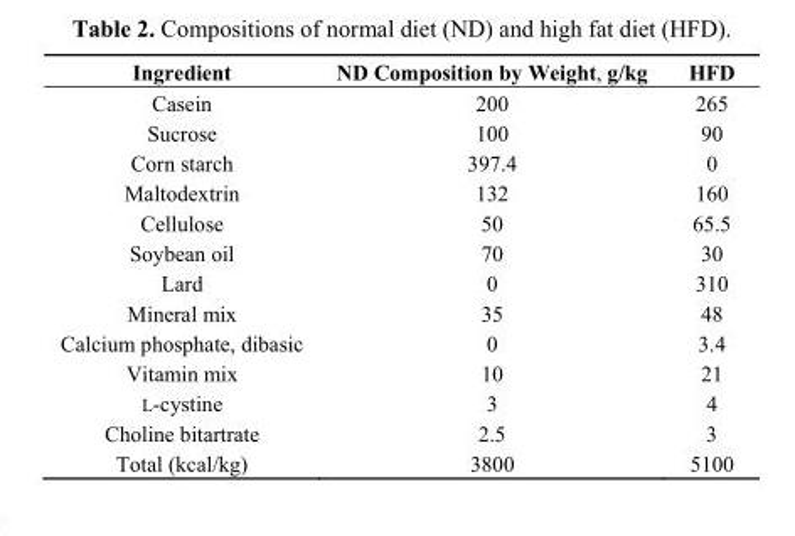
<table><thead><tr><td>Ingredient</td><td>ND Composition by Weight, g/kg</td><td>HFD</td></tr></thead><tbody><tr><td>Casein</td><td>200</td><td>265</td></tr><tr><td>Sucrose</td><td>100</td><td>90</td></tr><tr><td>Corn starch</td><td>397.4</td><td>0</td></tr><tr><td>Maltodextrin</td><td>132</td><td>160</td></tr><tr><td>Cellulose</td><td>50</td><td>65.5</td></tr><tr><td>Soybean oil</td><td>70</td><td>30</td></tr><tr><td>Lard</td><td>0</td><td>310</td></tr><tr><td>Mineral mix</td><td>35</td><td>48</td></tr><tr><td>Calcium phosphate, dibasic</td><td>0</td><td>3.4</td></tr><tr><td>Vitamin mix</td><td>10</td><td>21</td></tr><tr><td>L-cystine</td><td>3</td><td>4</td></tr><tr><td>Choline bitartrate</td><td>2.5</td><td>3</td></tr><tr><td>Total (kcal/kg)</td><td>3800</td><td>5100</td></tr></tbody></table>